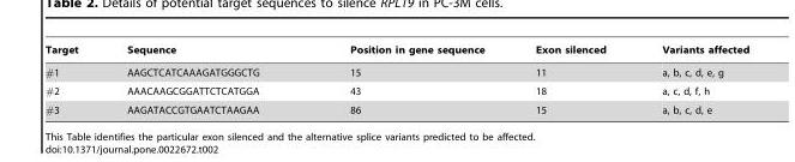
<table><thead><tr><td>Target</td><td>Sequence</td><td>Position in gene sequence</td><td>Exon silenced</td><td>Variants affected</td></tr></thead><tbody><tr><td>#1</td><td>AAGCTCATCAAAGATGGGCTG</td><td>15</td><td>11</td><td>a, b, c, d, e, g</td></tr><tr><td>#2</td><td>AAACAAGCGGATTCTCATGGA</td><td>43</td><td>18</td><td>a, c, d, f, h</td></tr><tr><td>#3</td><td>AAGATACCGTGAATCTAAGAA</td><td>86</td><td>15</td><td>a, b, c, d, e</td></tr></tbody></table>